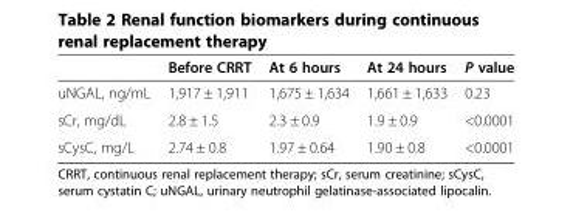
<table><thead><tr><td></td><td>Before CRRT</td><td>At 6 hours</td><td>At 24 hours</td><td>P value</td></tr></thead><tbody><tr><td>uNGAL, ng/mL</td><td>1,917 ± 1,911</td><td>1,675 ± 1,634</td><td>1,661 ± 1,633</td><td>0.23</td></tr><tr><td>sCr, mg/dL</td><td>2.8 ± 1.5</td><td>2.3 ± 0.9</td><td>1.9 ± 0.9</td><td>&lt;0.0001</td></tr><tr><td>sCysC, mg/L</td><td>2.74 ± 0.8</td><td>1.97 ± 0.64</td><td>1.90 ± 0.8</td><td>&lt;0.0001</td></tr></tbody></table>